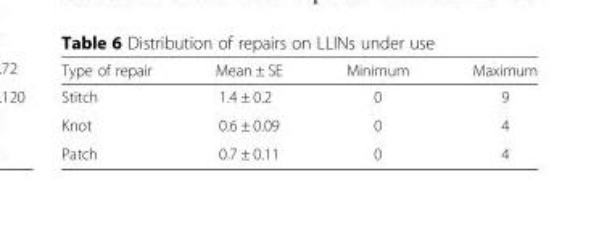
<table><thead><tr><td>Type of repair</td><td>Mean ± SE</td><td>Minimum</td><td>Maximum</td></tr></thead><tbody><tr><td>Stitch</td><td>1.4 ± 0.2</td><td>0</td><td>9</td></tr><tr><td>Knot</td><td>0.6 ± 0.09</td><td>0</td><td>4</td></tr><tr><td>Patch</td><td>0.7 ± 0.11</td><td>0</td><td>4</td></tr></tbody></table>